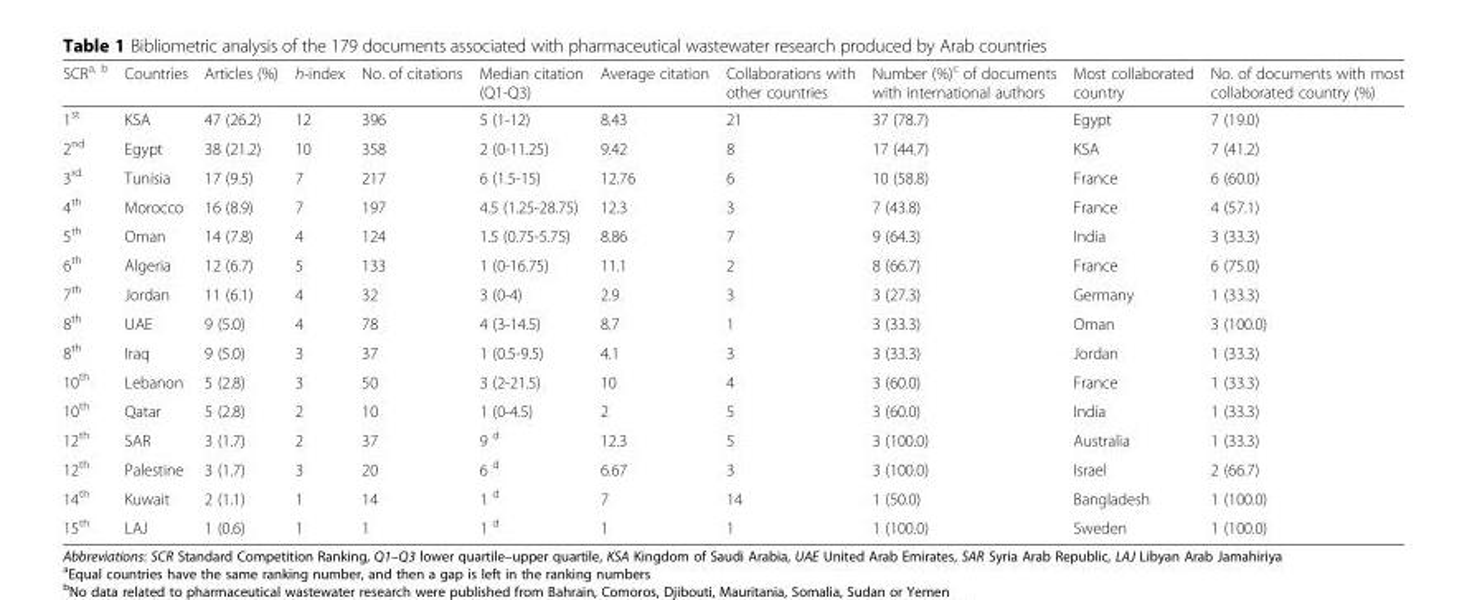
<table><thead><tr><td>SCR<sup>a, b</sup></td><td>Countries</td><td>Articles (%)</td><td>h-index</td><td>No. of citations</td><td>Median citation (Q1-Q3)</td><td>Average citation</td><td>Collaborations with other countries</td><td>Number (%)<sup>c</sup> of documents with international authors</td><td>Most collaborated country</td><td>No. of documents with most collaborated country (%)</td></tr></thead><tbody><tr><td>1<sup>st</sup></td><td>KSA</td><td>47 (26.2)</td><td>12</td><td>396</td><td>5 (1-12)</td><td>8.43</td><td>21</td><td>37 (78.7)</td><td>Egypt</td><td>7 (19.0)</td></tr><tr><td>2<sup>nd</sup></td><td>Egypt</td><td>38 (21.2)</td><td>10</td><td>358</td><td>2 (0-11.25)</td><td>9.42</td><td>8</td><td>17 (44.7)</td><td>KSA</td><td>7 (41.2)</td></tr><tr><td>3<sup>rd</sup></td><td>Tunisia</td><td>17 (9.5)</td><td>7</td><td>217</td><td>6 (1.5-15)</td><td>12.76</td><td>6</td><td>10 (58.8)</td><td>France</td><td>6 (60.0)</td></tr><tr><td>4<sup>th</sup></td><td>Morocco</td><td>16 (8.9)</td><td>7</td><td>197</td><td>4.5 (1.25-28.75)</td><td>12.3</td><td>3</td><td>7 (43.8)</td><td>France</td><td>4 (57.1)</td></tr><tr><td>5<sup>th</sup></td><td>Oman</td><td>14 (7.8)</td><td>4</td><td>124</td><td>1.5 (0.75-5.75)</td><td>8.86</td><td>7</td><td>9 (64.3)</td><td>India</td><td>3 (33.3)</td></tr><tr><td>6<sup>th</sup></td><td>Algeria</td><td>12 (6.7)</td><td>5</td><td>133</td><td>1 (0-16.75)</td><td>11.1</td><td>2</td><td>8 (66.7)</td><td>France</td><td>6 (75.0)</td></tr><tr><td>7<sup>th</sup></td><td>Jordan</td><td>11 (6.1)</td><td>4</td><td>32</td><td>3 (0-4)</td><td>2.9</td><td>3</td><td>3 (27.3)</td><td>Germany</td><td>1 (33.3)</td></tr><tr><td>8<sup>th</sup></td><td>UAE</td><td>9 (5.0)</td><td>4</td><td>78</td><td>4 (3-14.5)</td><td>8.7</td><td>1</td><td>3 (33.3)</td><td>Oman</td><td>3 (100.0)</td></tr><tr><td>8<sup>th</sup></td><td>Iraq</td><td>9 (5.0)</td><td>3</td><td>37</td><td>1 (0.5-9.5)</td><td>4.1</td><td>3</td><td>3 (33.3)</td><td>Jordan</td><td>1 (33.3)</td></tr><tr><td>10<sup>th</sup></td><td>Lebanon</td><td>5 (2.8)</td><td>3</td><td>50</td><td>3 (2-21.5)</td><td>10</td><td>4</td><td>3 (60.0)</td><td>France</td><td>1 (33.3)</td></tr><tr><td>10<sup>th</sup></td><td>Qatar</td><td>5 (2.8)</td><td>2</td><td>10</td><td>1 (0-4.5)</td><td>2</td><td>5</td><td>3 (60.0)</td><td>India</td><td>1 (33.3)</td></tr><tr><td>12<sup>th</sup></td><td>SAR</td><td>3 (1.7)</td><td>2</td><td>37</td><td>9 <sup>d</sup></td><td>12.3</td><td>5</td><td>3 (100.0)</td><td>Australia</td><td>1 (33.3)</td></tr><tr><td>12<sup>th</sup></td><td>Palestine</td><td>3 (1.7)</td><td>3</td><td>20</td><td>6 <sup>d</sup></td><td>6.67</td><td>3</td><td>3 (100.0)</td><td>Israel</td><td>2 (66.7)</td></tr><tr><td>14<sup>th</sup></td><td>Kuwait</td><td>2 (1.1)</td><td>1</td><td>14</td><td>1 <sup>d</sup></td><td>7</td><td>14</td><td>1 (50.0)</td><td>Bangladesh</td><td>1 (100.0)</td></tr><tr><td>15<sup>th</sup></td><td>LAJ</td><td>1 (0.6)</td><td>1</td><td>1</td><td>1 <sup>d</sup></td><td>1</td><td>1</td><td>1 (100.0)</td><td>Sweden</td><td>1 (100.0)</td></tr></tbody></table>